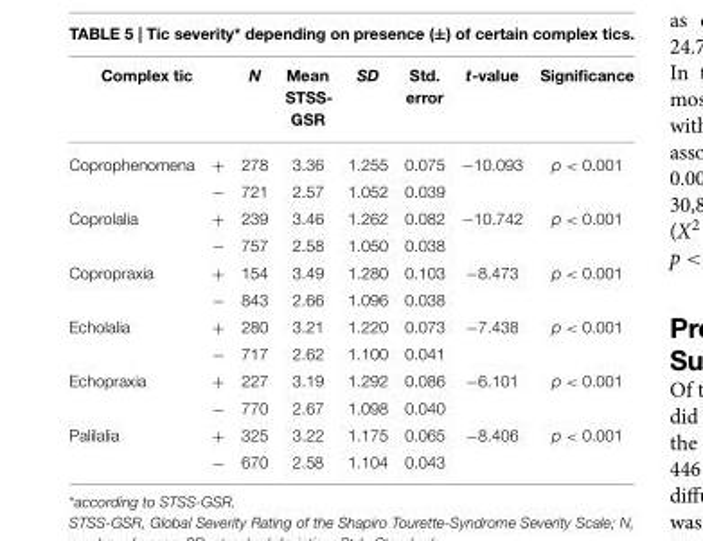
<table><thead><tr><td colspan="2">Complex tic</td><td rowspan="2">N 278</td><td rowspan="2">Mean STSS- GSR 3.36</td><td rowspan="2">SD 1.255</td><td rowspan="2">Std. error 0.075</td><td rowspan="2">t-value −10.093</td><td rowspan="2">Significance p &lt; 0.001</td></tr><tr><td>Coprophenomena</td><td>+</td></tr></thead><tbody><tr><td></td><td>−</td><td>721</td><td>2.57</td><td>1.052</td><td>0.039</td><td></td><td></td></tr><tr><td rowspan="2">Coprolalia</td><td>+</td><td>239</td><td>3.46</td><td>1.262</td><td>0.082</td><td>−10.742</td><td>p &lt; 0.001</td></tr><tr><td>−</td><td>757</td><td>2.58</td><td>1.050</td><td>0.038</td><td></td><td></td></tr><tr><td rowspan="2">Copropraxia</td><td>+</td><td>154</td><td>3.49</td><td>1.280</td><td>0.103</td><td>−8.473</td><td>p &lt; 0.001</td></tr><tr><td>−</td><td>843</td><td>2.66</td><td>1.096</td><td>0.038</td><td></td><td></td></tr><tr><td rowspan="2">Echolalia</td><td>+</td><td>280</td><td>3.21</td><td>1.220</td><td>0.073</td><td>−7.438</td><td>p &lt; 0.001</td></tr><tr><td>−</td><td>717</td><td>2.62</td><td>1.100</td><td>0.041</td><td></td><td></td></tr><tr><td rowspan="2">Echopraxia</td><td>+</td><td>227</td><td>3.19</td><td>1.292</td><td>0.086</td><td>−6.101</td><td>p &lt; 0.001</td></tr><tr><td>−</td><td>770</td><td>2.67</td><td>1.098</td><td>0.040</td><td></td><td></td></tr><tr><td rowspan="2">Palilalia</td><td>+</td><td>325</td><td>3.22</td><td>1.175</td><td>0.065</td><td>−8.406</td><td>p &lt; 0.001</td></tr><tr><td>−</td><td>670</td><td>2.58</td><td>1.104</td><td>0.043</td><td></td><td></td></tr></tbody></table>